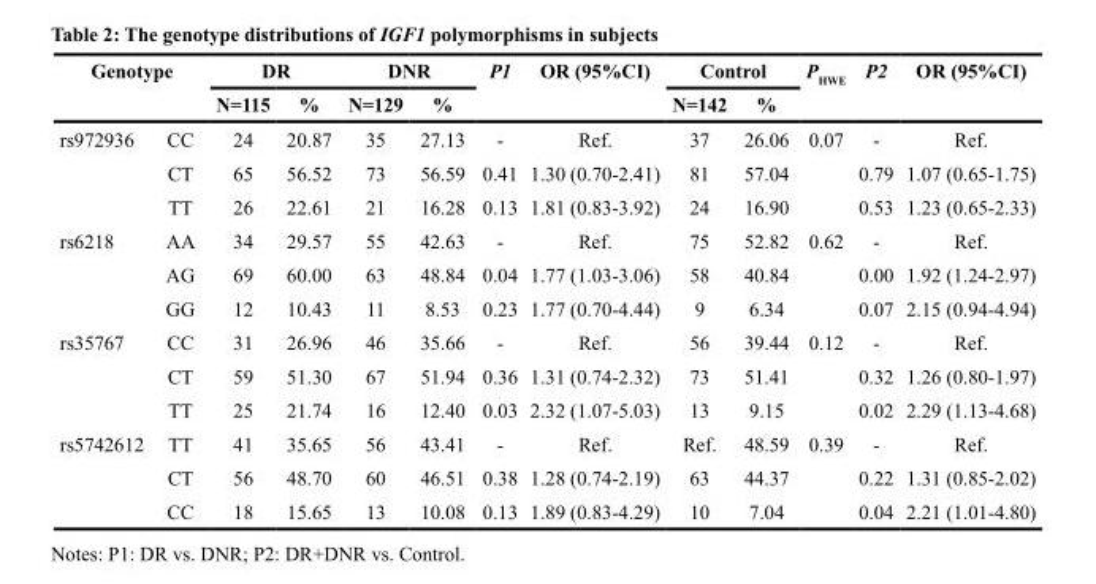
<table><thead><tr><td rowspan="2" colspan="2">Genotype</td><td colspan="2">DR</td><td colspan="2">DNR</td><td rowspan="3">P1 -</td><td rowspan="3">OR (95%CI) Ref.</td><td colspan="2">Control</td><td rowspan="3">P<sub>HWE</sub> 0.07</td><td rowspan="3">P2 -</td><td rowspan="3">OR (95%CI) Ref.</td></tr><tr><td rowspan="2">N=115 24</td><td rowspan="2">% 20.87</td><td rowspan="2">N=129 35</td><td rowspan="2">% 27.13</td><td rowspan="2">N=142 37</td><td rowspan="2">% 26.06</td></tr><tr><td>rs972936</td><td>CC</td></tr></thead><tbody><tr><td></td><td>CT</td><td>65</td><td>56.52</td><td>73</td><td>56.59</td><td>0.41</td><td>1.30 (0.70-2.41)</td><td>81</td><td>57.04</td><td></td><td>0.79</td><td>1.07 (0.65-1.75)</td></tr><tr><td></td><td>TT</td><td>26</td><td>22.61</td><td>21</td><td>16.28</td><td>0.13</td><td>1.81 (0.83-3.92)</td><td>24</td><td>16.90</td><td></td><td>0.53</td><td>1.23 (0.65-2.33)</td></tr><tr><td rowspan="3">rs6218</td><td>AA</td><td>34</td><td>29.57</td><td>55</td><td>42.63</td><td>-</td><td>Ref.</td><td>75</td><td>52.82</td><td>0.62</td><td>-</td><td>Ref.</td></tr><tr><td>AG</td><td>69</td><td>60.00</td><td>63</td><td>48.84</td><td>0.04</td><td>1.77 (1.03-3.06)</td><td>58</td><td>40.84</td><td></td><td>0.00</td><td>1.92 (1.24-2.97)</td></tr><tr><td>GG</td><td>12</td><td>10.43</td><td>11</td><td>8.53</td><td>0.23</td><td>1.77 (0.70-4.44)</td><td>9</td><td>6.34</td><td></td><td>0.07</td><td>2.15 (0.94-4.94)</td></tr><tr><td rowspan="3">rs35767</td><td>CC</td><td>31</td><td>26.96</td><td>46</td><td>35.66</td><td>-</td><td>Ref.</td><td>56</td><td>39.44</td><td>0.12</td><td>-</td><td>Ref.</td></tr><tr><td>CT</td><td>59</td><td>51.30</td><td>67</td><td>51.94</td><td>0.36</td><td>1.31 (0.74-2.32)</td><td>73</td><td>51.41</td><td></td><td>0.32</td><td>1.26 (0.80-1.97)</td></tr><tr><td>TT</td><td>25</td><td>21.74</td><td>16</td><td>12.40</td><td>0.03</td><td>2.32 (1.07-5.03)</td><td>13</td><td>9.15</td><td></td><td>0.02</td><td>2.29 (1.13-4.68)</td></tr><tr><td rowspan="3">rs5742612</td><td>TT</td><td>41</td><td>35.65</td><td>56</td><td>43.41</td><td>-</td><td>Ref.</td><td>Ref.</td><td>48.59</td><td>0.39</td><td>-</td><td>Ref.</td></tr><tr><td>CT</td><td>56</td><td>48.70</td><td>60</td><td>46.51</td><td>0.38</td><td>1.28 (0.74-2.19)</td><td>63</td><td>44.37</td><td></td><td>0.22</td><td>1.31 (0.85-2.02)</td></tr><tr><td>CC</td><td>18</td><td>15.65</td><td>13</td><td>10.08</td><td>0.13</td><td>1.89 (0.83-4.29)</td><td>10</td><td>7.04</td><td></td><td>0.04</td><td>2.21 (1.01-4.80)</td></tr></tbody></table>